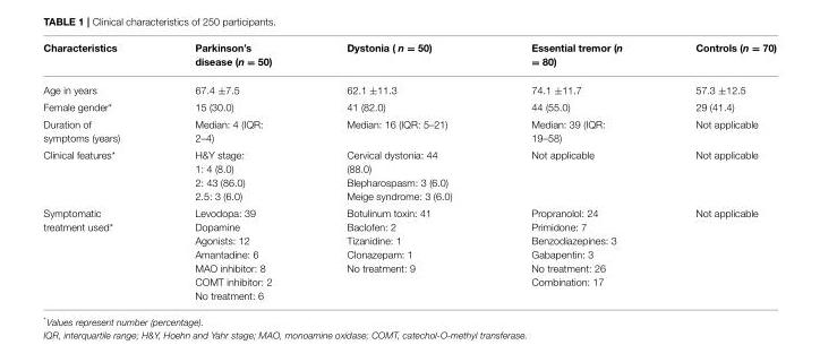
<table><thead><tr><td>Characteristics</td><td>Parkinson’s disease (n = 50)</td><td>Dystonia ( n = 50)</td><td>Essential tremor (n = 80)</td><td>Controls (n = 70)</td></tr></thead><tbody><tr><td>Age in years</td><td>67.4 ±7.5</td><td>62.1 ±11.3</td><td>74.1 ±11.7</td><td>57.3 ±12.5</td></tr><tr><td>Female gender*</td><td>15 (30.0)</td><td>41 (82.0)</td><td>44 (55.0)</td><td>29 (41.4)</td></tr><tr><td>Duration of symptoms (years)</td><td>Median: 4 (IQR: 2–4)</td><td>Median: 16 (IQR: 5–21)</td><td>Median: 39 (IQR: 19–58)</td><td>Not applicable</td></tr><tr><td>Clinical features*</td><td>H&amp;Y stage: 1: 4 (8.0) 2: 43 (86.0) 2.5: 3 (6.0)</td><td>Cervical dystonia: 44 (88.0) Blepharospasm: 3 (6.0) Meige syndrome: 3 (6.0)</td><td>Not applicable</td><td>Not applicable</td></tr><tr><td>Symptomatic treatment used*</td><td>Levodopa: 39 Dopamine Agonists: 12 Amantadine: 6 MAO inhibitor: 8 COMT inhibitor: 2 No treatment: 6</td><td>Botulinum toxin: 41 Baclofen: 2 Tizanidine: 1 Clonazepam: 1 No treatment: 9</td><td>Propranolol: 24 Primidone: 7 Benzodiazepines: 3 Gabapentin: 3 No treatment: 26 Combination: 17</td><td>Not applicable</td></tr></tbody></table>